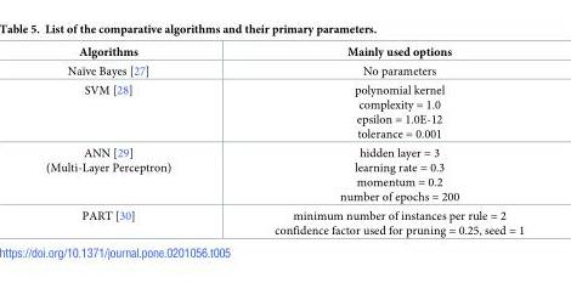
<table><thead><tr><td>Algorithms</td><td>Mainly used options</td></tr></thead><tbody><tr><td>Naïve Bayes [27]</td><td>No parameters</td></tr><tr><td>SVM [28]</td><td>polynomial kernel complexity = 1.0 epsilon = 1.0E-12 tolerance = 0.001</td></tr><tr><td>ANN [29] (Multi-Layer Perceptron)</td><td>hidden layer = 3 learning rate = 0.3 momentum = 0.2 number of epochs = 200</td></tr><tr><td>PART [30]</td><td>minimum number of instances per rule = 2 confidence factor used for pruning = 0.25, seed = 1</td></tr></tbody></table>